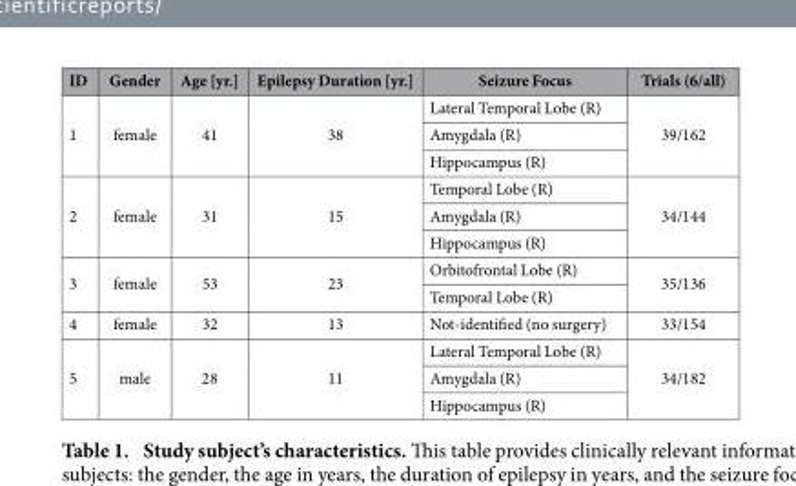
<table><thead><tr><td>ID</td><td>Gender</td><td>Age [yr.]</td><td>Epilepsy Duration [yr.]</td><td>Seizure Focus</td><td>Trials (6/all)</td></tr></thead><tbody><tr><td rowspan="3">1</td><td rowspan="3">female</td><td rowspan="3">41</td><td rowspan="3">38</td><td>Lateral Temporal Lobe (R)</td><td rowspan="3">39/162</td></tr><tr><td>Amygdala (R)</td></tr><tr><td>Hippocampus (R)</td></tr><tr><td rowspan="3">2</td><td rowspan="3">female</td><td rowspan="3">31</td><td rowspan="3">15</td><td>Temporal Lobe (R)</td><td rowspan="3">34/144</td></tr><tr><td>Amygdala (R)</td></tr><tr><td>Hippocampus (R)</td></tr><tr><td rowspan="2">3</td><td rowspan="2">female</td><td rowspan="2">53</td><td rowspan="2">23</td><td>Orbitofrontal Lobe (R)</td><td rowspan="2">35/136</td></tr><tr><td>Temporal Lobe (R)</td></tr><tr><td>4</td><td>female</td><td>32</td><td>13</td><td>Not-identified (no surgery)</td><td>33/154</td></tr><tr><td rowspan="3">5</td><td rowspan="3">male</td><td rowspan="3">28</td><td rowspan="3">11</td><td>Lateral Temporal Lobe (R)</td><td rowspan="3">34/182</td></tr><tr><td>Amygdala (R)</td></tr><tr><td>Hippocampus (R)</td></tr></tbody></table>